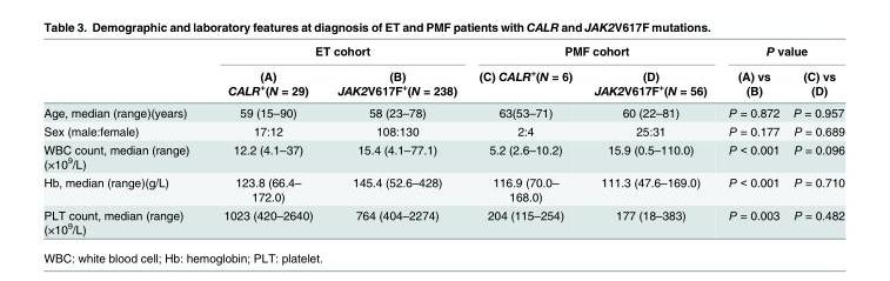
<table><thead><tr><td rowspan="2"></td><td colspan="2">ET cohort</td><td colspan="2">PMF cohort</td><td colspan="2">P value</td></tr><tr><td>(A) CALR<sup>+</sup>(N = 29)</td><td>(B) JAK2V617F<sup>+</sup>(N = 238)</td><td>(C) CALR<sup>+</sup>(N = 6)</td><td>(D) JAK2V617F<sup>+</sup>(N = 56)</td><td>(A) vs (B)</td><td>(C) vs (D)</td></tr></thead><tbody><tr><td>Age, median (range)(years)</td><td>59 (15–90)</td><td>58 (23–78)</td><td>63(53–71)</td><td>60 (22–81)</td><td>P = 0.872</td><td>P = 0.957</td></tr><tr><td>Sex (male:female)</td><td>17:12</td><td>108:130</td><td>2:4</td><td>25:31</td><td>P = 0.177</td><td>P = 0.689</td></tr><tr><td>WBC count, median (range) (×10<sup>9</sup>/L)</td><td>12.2 (4.1–37)</td><td>15.4 (4.1–77.1)</td><td>5.2 (2.6–10.2)</td><td>15.9 (0.5–110.0)</td><td>P &lt; 0.001</td><td>P = 0.096</td></tr><tr><td>Hb, median (range)(g/L)</td><td>123.8 (66.4– 172.0)</td><td>145.4 (52.6–428)</td><td>116.9 (70.0– 168.0)</td><td>111.3 (47.6–169.0)</td><td>P &lt; 0.001</td><td>P = 0.710</td></tr><tr><td>PLT count, median (range) (×10<sup>9</sup>/L)</td><td>1023 (420–2640)</td><td>764 (404–2274)</td><td>204 (115–254)</td><td>177 (18–383)</td><td>P = 0.003</td><td>P = 0.482</td></tr></tbody></table>